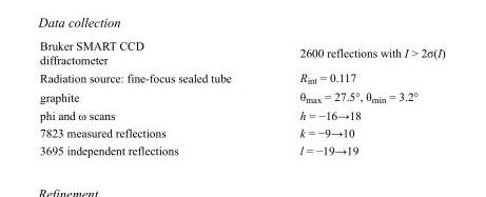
<table><tbody><tr><td>Bruker SMART CCD diffractometer</td><td>2600 reflections with I &gt; 2σ(I)</td></tr><tr><td>Radiation source: fine-focus sealed tube</td><td>R<sub>int</sub> = 0.117</td></tr><tr><td>graphite</td><td>θ<sub>max</sub> = 27.5°, θ<sub>min</sub> = 3.2°</td></tr><tr><td>phi and ω scans</td><td>h = −16→18</td></tr><tr><td>7823 measured reflections</td><td>k = −9→10</td></tr><tr><td>3695 independent reflections</td><td>l = −19→19</td></tr></tbody></table>